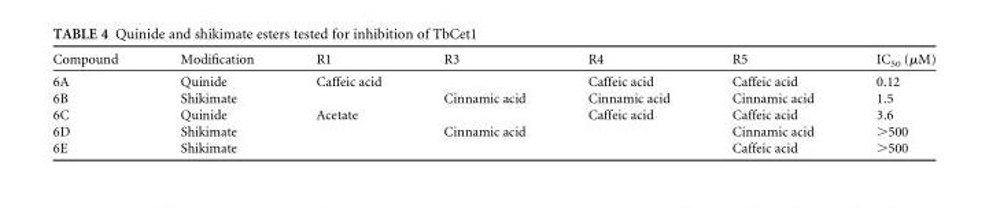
<table><thead><tr><td>Compound</td><td>Modification</td><td>R1</td><td>R3</td><td>R4</td><td>R5</td><td>IC<sub>50</sub> (µM)</td></tr></thead><tbody><tr><td>6A</td><td>Quinide</td><td>Caffeic acid</td><td></td><td>Caffeic acid</td><td>Caffeic acid</td><td>0.12</td></tr><tr><td>6B</td><td>Shikimate</td><td></td><td>Cinnamic acid</td><td>Cinnamic acid</td><td>Cinnamic acid</td><td>1.5</td></tr><tr><td>6C</td><td>Quinide</td><td>Acetate</td><td></td><td>Caffeic acid</td><td>Caffeic acid</td><td>3.6</td></tr><tr><td>6D</td><td>Shikimate</td><td></td><td>Cinnamic acid</td><td></td><td>Cinnamic acid</td><td>&gt;500</td></tr><tr><td>6E</td><td>Shikimate</td><td></td><td></td><td></td><td>Caffeic acid</td><td>&gt;500</td></tr></tbody></table>